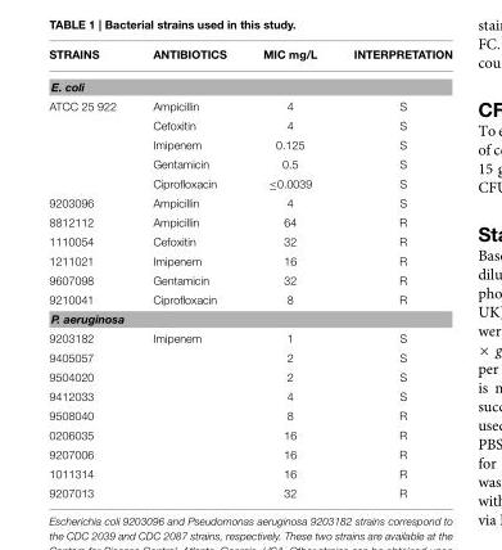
<table><thead><tr><td>STRAINS</td><td>ANTIBIOTICS</td><td>MIC mg/L</td><td>INTERPRETATION</td></tr></thead><tbody><tr><td colspan="4">E. coli</td></tr><tr><td rowspan="5">ATCC 25 922</td><td>Ampicillin</td><td>4</td><td>S</td></tr><tr><td>Cefoxitin</td><td>4</td><td>S</td></tr><tr><td>Imipenem</td><td>0.125</td><td>S</td></tr><tr><td>Gentamicin</td><td>0.5</td><td>S</td></tr><tr><td>Ciprofloxacin</td><td>≤0.0039</td><td>S</td></tr><tr><td>9203096</td><td>Ampicillin</td><td>4</td><td>S</td></tr><tr><td>8812112</td><td>Ampicillin</td><td>64</td><td>R</td></tr><tr><td>1110054</td><td>Cefoxitin</td><td>32</td><td>R</td></tr><tr><td>1211021</td><td>Imipenem</td><td>16</td><td>R</td></tr><tr><td>9607098</td><td>Gentamicin</td><td>32</td><td>R</td></tr><tr><td>9210041</td><td>Ciprofloxacin</td><td>8</td><td>R</td></tr><tr><td colspan="4">P. aeruginosa</td></tr><tr><td>9203182</td><td>Imipenem</td><td>1</td><td>S</td></tr><tr><td>9405057</td><td></td><td>2</td><td>S</td></tr><tr><td>9504020</td><td></td><td>2</td><td>S</td></tr><tr><td>9412033</td><td></td><td>4</td><td>S</td></tr><tr><td>9508040</td><td></td><td>8</td><td>R</td></tr><tr><td>0206035</td><td></td><td>16</td><td>R</td></tr><tr><td>9207006</td><td></td><td>16</td><td>R</td></tr><tr><td>1011314</td><td></td><td>16</td><td>R</td></tr><tr><td>9207013</td><td></td><td>32</td><td>R</td></tr></tbody></table>